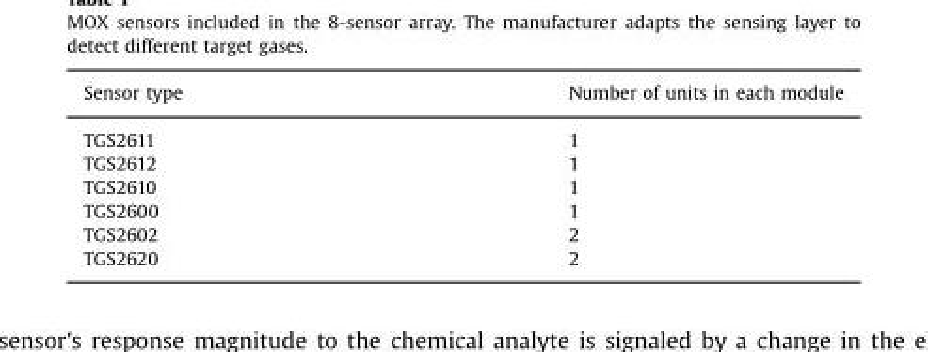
<table><thead><tr><td>Sensor type</td><td>Number of units in each module</td></tr></thead><tbody><tr><td>TGS2611</td><td>1</td></tr><tr><td>TGS2612</td><td>1</td></tr><tr><td>TGS2610</td><td>1</td></tr><tr><td>TGS2600</td><td>1</td></tr><tr><td>TGS2602</td><td>2</td></tr><tr><td>TGS2620</td><td>2</td></tr></tbody></table>